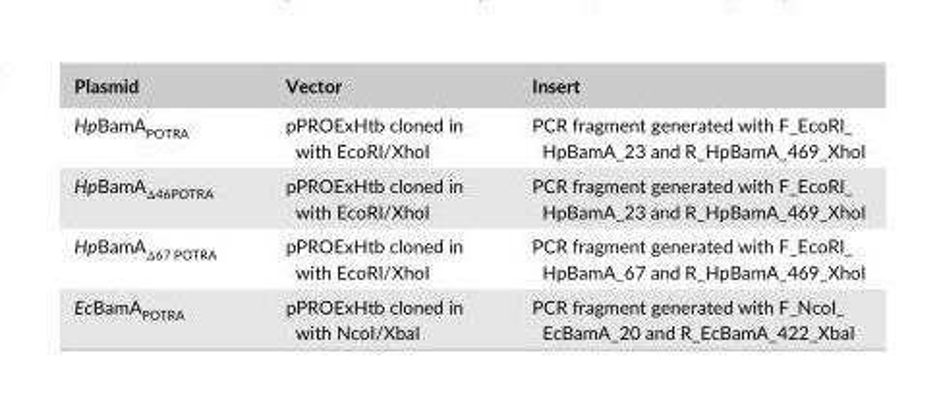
<table><thead><tr><td>Plasmid</td><td>Vector</td><td>Insert</td></tr></thead><tbody><tr><td>HpBamA<sub>POTRA</sub></td><td>pPROExHtb cloned in with EcoRI/XhoI</td><td>PCR fragment generated with F_EcoRI_ HpBamA_23 and R_HpBamA_469_XhoI</td></tr><tr><td>HpBamA<sub>Δ46POTRA</sub></td><td>pPROExHtb cloned in with EcoRI/XhoI</td><td>PCR fragment generated with F_EcoRI_ HpBamA_23 and R_HpBamA_469_XhoI</td></tr><tr><td>HpBamA<sub>Δ67 POTRA</sub></td><td>pPROExHtb cloned in with EcoRI/XhoI</td><td>PCR fragment generated with F_EcoRI_ HpBamA_67 and R_HpBamA_469_XhoI</td></tr><tr><td>EcBamA<sub>POTRA</sub></td><td>pPROExHtb cloned in with NcoI/XbaI</td><td>PCR fragment generated with F_NcoI_ EcBamA_20 and R_EcBamA_422_XbaI</td></tr></tbody></table>